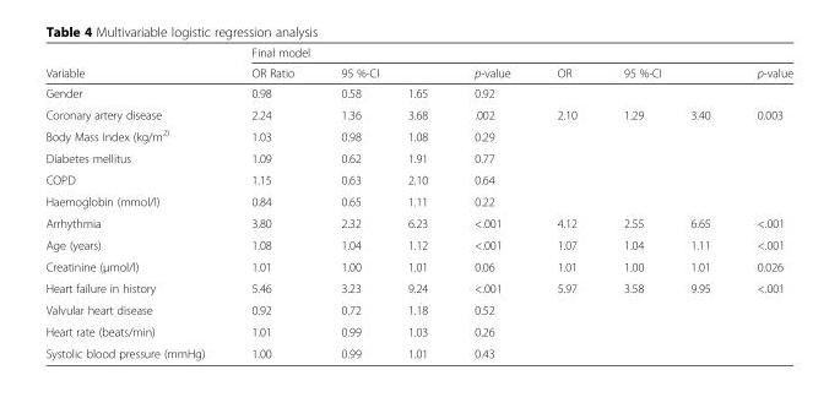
<table><thead><tr><td rowspan="3">Variable Gender</td><td colspan="8">Final model</td></tr><tr><td rowspan="2">OR Ratio 0.98</td><td colspan="2">95 %-CI</td><td rowspan="2">p-value 0.92</td><td rowspan="2">OR</td><td colspan="2">95 %-CI</td><td rowspan="2">p-value</td></tr><tr><td>0.58</td><td>1.65</td><td></td><td></td></tr></thead><tbody><tr><td>Coronary artery disease</td><td>2.24</td><td>1.36</td><td>3.68</td><td>.002</td><td>2.10</td><td>1.29</td><td>3.40</td><td>0.003</td></tr><tr><td>Body Mass Index (kg/m<sup>2)</sup></td><td>1.03</td><td>0.98</td><td>1.08</td><td>0.29</td><td></td><td></td><td></td><td></td></tr><tr><td>Diabetes mellitus</td><td>1.09</td><td>0.62</td><td>1.91</td><td>0.77</td><td></td><td></td><td></td><td></td></tr><tr><td>COPD</td><td>1.15</td><td>0.63</td><td>2.10</td><td>0.64</td><td></td><td></td><td></td><td></td></tr><tr><td>Haemoglobin (mmol/l)</td><td>0.84</td><td>0.65</td><td>1.11</td><td>0.22</td><td></td><td></td><td></td><td></td></tr><tr><td>Arrhythmia</td><td>3.80</td><td>2.32</td><td>6.23</td><td>&lt;.001</td><td>4.12</td><td>2.55</td><td>6.65</td><td>&lt;.001</td></tr><tr><td>Age (years)</td><td>1.08</td><td>1.04</td><td>1.12</td><td>&lt;.001</td><td>1.07</td><td>1.04</td><td>1.11</td><td>&lt;.001</td></tr><tr><td>Creatinine (μmol/l)</td><td>1.01</td><td>1.00</td><td>1.01</td><td>0.06</td><td>1.01</td><td>1.00</td><td>1.01</td><td>0.026</td></tr><tr><td>Heart failure in history</td><td>5.46</td><td>3.23</td><td>9.24</td><td>&lt;.001</td><td>5.97</td><td>3.58</td><td>9.95</td><td>&lt;.001</td></tr><tr><td>Valvular heart disease</td><td>0.92</td><td>0.72</td><td>1.18</td><td>0.52</td><td></td><td></td><td></td><td></td></tr><tr><td>Heart rate (beats/min)</td><td>1.01</td><td>0.99</td><td>1.03</td><td>0.26</td><td></td><td></td><td></td><td></td></tr><tr><td>Systolic blood pressure (mmHg)</td><td>1.00</td><td>0.99</td><td>1.01</td><td>0.43</td><td></td><td></td><td></td><td></td></tr></tbody></table>